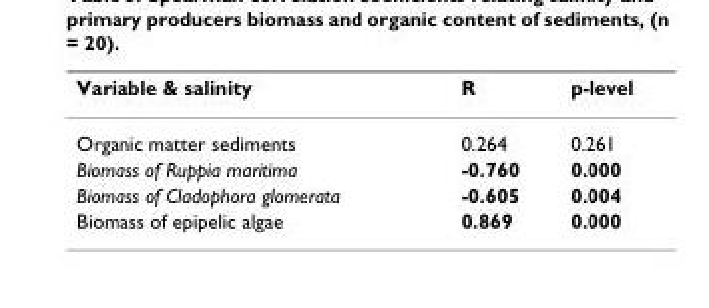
<table><thead><tr><td>Variable &amp; salinity</td><td>R</td><td>p-level</td></tr></thead><tbody><tr><td>Organic matter sediments</td><td>0.264</td><td>0.261</td></tr><tr><td>Biomass of Ruppia maritima</td><td>-0.760</td><td>0.000</td></tr><tr><td>Biomass of Cladophora glomerata</td><td>-0.605</td><td>0.004</td></tr><tr><td>Biomass of epipelic algae</td><td>0.869</td><td>0.000</td></tr></tbody></table>